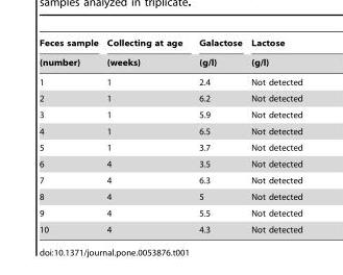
<table><thead><tr><td rowspan="2">Feces sample (number)</td><td rowspan="2">Collecting at age (weeks)</td><td rowspan="2">Galactose (g/l)</td><td rowspan="2">Lactose (g/l)</td></tr><tr></tr></thead><tbody><tr><td>1</td><td>1</td><td>2.4</td><td>Not detected</td></tr><tr><td>2</td><td>1</td><td>6.2</td><td>Not detected</td></tr><tr><td>3</td><td>1</td><td>5.9</td><td>Not detected</td></tr><tr><td>4</td><td>1</td><td>6.5</td><td>Not detected</td></tr><tr><td>5</td><td>1</td><td>3.7</td><td>Not detected</td></tr><tr><td>6</td><td>4</td><td>3.5</td><td>Not detected</td></tr><tr><td>7</td><td>4</td><td>6.3</td><td>Not detected</td></tr><tr><td>8</td><td>4</td><td>5</td><td>Not detected</td></tr><tr><td>9</td><td>4</td><td>5.5</td><td>Not detected</td></tr><tr><td>10</td><td>4</td><td>4.3</td><td>Not detected</td></tr></tbody></table>